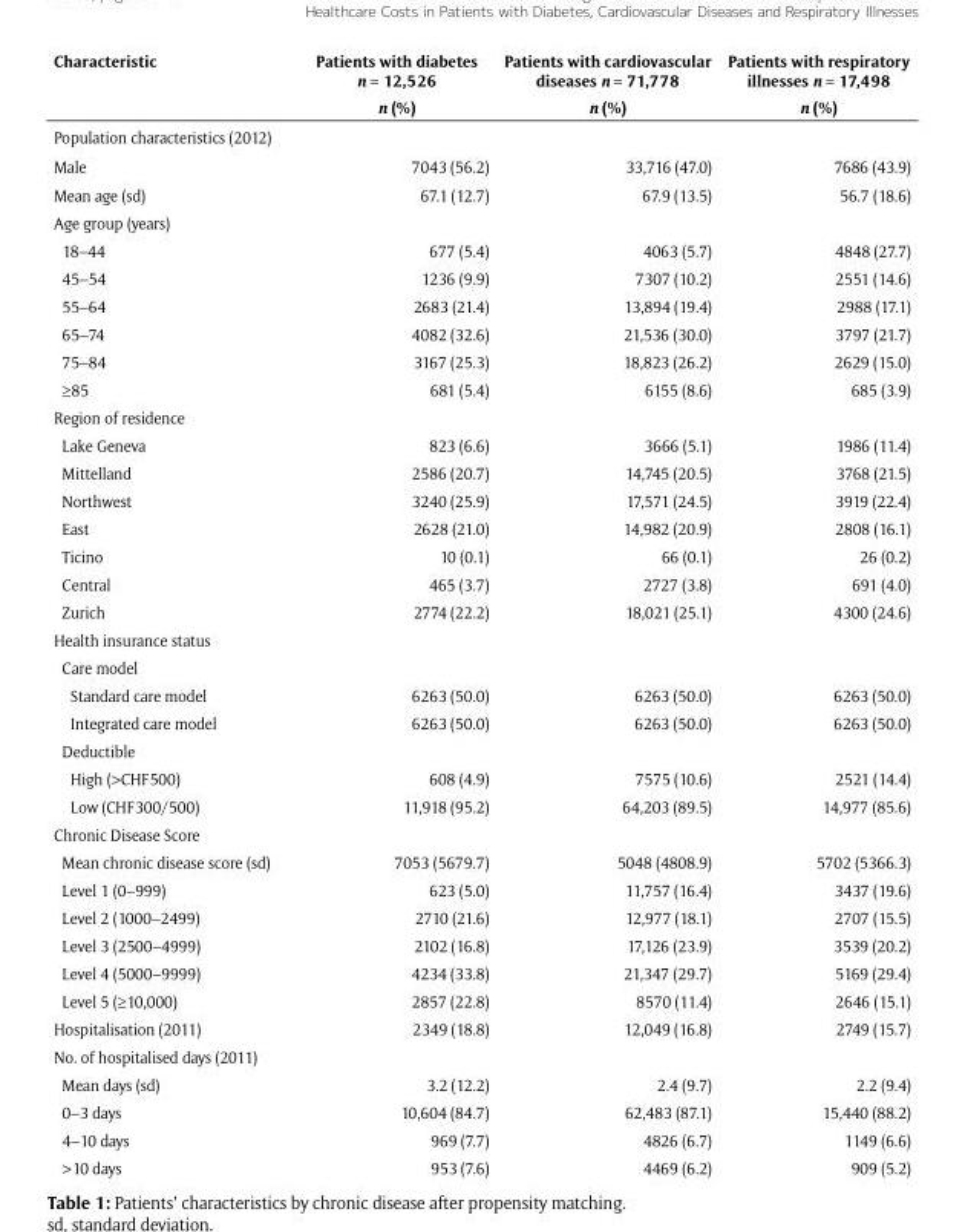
<table><thead><tr><td rowspan="2">Characteristic</td><td rowspan="2">Patients with diabetes n = 12,526 n (%)</td><td rowspan="2">Patients with cardiovascular diseases n = 71,778 n (%)</td><td rowspan="2">Patients with respiratory illnesses n = 17,498 n (%)</td></tr><tr></tr></thead><tbody><tr><td colspan="4">Population characteristics (2012)</td></tr><tr><td>Male</td><td>7043 (56.2)</td><td>33,716 (47.0)</td><td>7686 (43.9)</td></tr><tr><td>Mean age (sd)</td><td>67.1 (12.7)</td><td>67.9 (13.5)</td><td>56.7 (18.6)</td></tr><tr><td colspan="4">Age group (years)</td></tr><tr><td>18–44</td><td>677 (5.4)</td><td>4063 (5.7)</td><td>4848 (27.7)</td></tr><tr><td>45–54</td><td>1236 (9.9)</td><td>7307 (10.2)</td><td>2551 (14.6)</td></tr><tr><td>55–64</td><td>2683 (21.4)</td><td>13,894 (19.4)</td><td>2988 (17.1)</td></tr><tr><td>65–74</td><td>4082 (32.6)</td><td>21,536 (30.0)</td><td>3797 (21.7)</td></tr><tr><td>75–84</td><td>3167 (25.3)</td><td>18,823 (26.2)</td><td>2629 (15.0)</td></tr><tr><td>≥85</td><td>681 (5.4)</td><td>6155 (8.6)</td><td>685 (3.9)</td></tr><tr><td colspan="4">Region of residence</td></tr><tr><td>Lake Geneva</td><td>823 (6.6)</td><td>3666 (5.1)</td><td>1986 (11.4)</td></tr><tr><td>Mittelland</td><td>2586 (20.7)</td><td>14,745 (20.5)</td><td>3768 (21.5)</td></tr><tr><td>Northwest</td><td>3240 (25.9)</td><td>17,571 (24.5)</td><td>3919 (22.4)</td></tr><tr><td>East</td><td>2628 (21.0)</td><td>14,982 (20.9)</td><td>2808 (16.1)</td></tr><tr><td>Ticino</td><td>10 (0.1)</td><td>66 (0.1)</td><td>26 (0.2)</td></tr><tr><td>Central</td><td>465 (3.7)</td><td>2727 (3.8)</td><td>691 (4.0)</td></tr><tr><td>Zurich</td><td>2774 (22.2)</td><td>18,021 (25.1)</td><td>4300 (24.6)</td></tr><tr><td colspan="4">Health insurance status</td></tr><tr><td colspan="4">Care model</td></tr><tr><td>Standard care model</td><td>6263 (50.0)</td><td>6263 (50.0)</td><td>6263 (50.0)</td></tr><tr><td>Integrated care model</td><td>6263 (50.0)</td><td>6263 (50.0)</td><td>6263 (50.0)</td></tr><tr><td colspan="4">Deductible</td></tr><tr><td>High (&gt;CHF500)</td><td>608 (4.9)</td><td>7575 (10.6)</td><td>2521 (14.4)</td></tr><tr><td>Low (CHF300/500)</td><td>11,918 (95.2)</td><td>64,203 (89.5)</td><td>14,977 (85.6)</td></tr><tr><td colspan="4">Chronic Disease Score</td></tr><tr><td>Mean chronic disease score (sd)</td><td>7053 (5679.7)</td><td>5048 (4808.9)</td><td>5702 (5366.3)</td></tr><tr><td>Level 1 (0–999)</td><td>623 (5.0)</td><td>11,757 (16.4)</td><td>3437 (19.6)</td></tr><tr><td>Level 2 (1000–2499)</td><td>2710 (21.6)</td><td>12,977 (18.1)</td><td>2707 (15.5)</td></tr><tr><td>Level 3 (2500–4999)</td><td>2102 (16.8)</td><td>17,126 (23.9)</td><td>3539 (20.2)</td></tr><tr><td>Level 4 (5000–9999)</td><td>4234 (33.8)</td><td>21,347 (29.7)</td><td>5169 (29.4)</td></tr><tr><td>Level 5 (≥10,000)</td><td>2857 (22.8)</td><td>8570 (11.4)</td><td>2646 (15.1)</td></tr><tr><td>Hospitalisation (2011)</td><td>2349 (18.8)</td><td>12,049 (16.8)</td><td>2749 (15.7)</td></tr><tr><td colspan="4">No. of hospitalised days (2011)</td></tr><tr><td>Mean days (sd)</td><td>3.2 (12.2)</td><td>2.4 (9.7)</td><td>2.2 (9.4)</td></tr><tr><td>0–3 days</td><td>10,604 (84.7)</td><td>62,483 (87.1)</td><td>15,440 (88.2)</td></tr><tr><td>4–10 days</td><td>969 (7.7)</td><td>4826 (6.7)</td><td>1149 (6.6)</td></tr><tr><td>&gt;10 days</td><td>953 (7.6)</td><td>4469 (6.2)</td><td>909 (5.2)</td></tr></tbody></table>